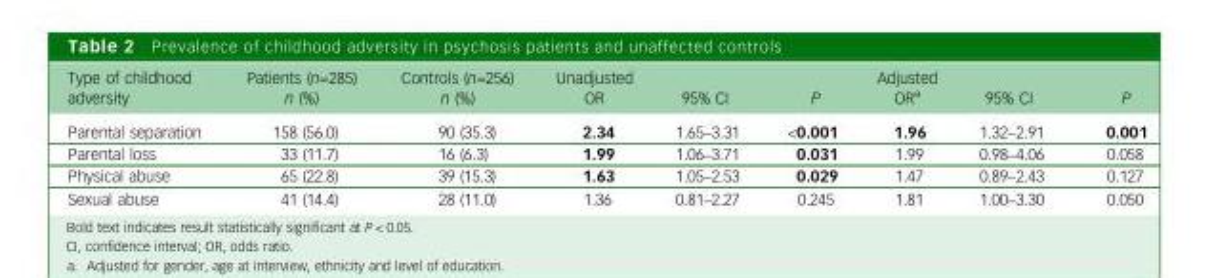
<table><thead><tr><td>Type of childhood adversity</td><td>Patients (n=285) n (%)</td><td>Controls (n=256) n (%)</td><td>Unadjusted OR</td><td>95% CI</td><td>P</td><td>Adjusted OR<sup>a</sup></td><td>95% CI</td><td>P</td></tr></thead><tbody><tr><td>Parental separation</td><td>158 (56.0)</td><td>90 (35.3)</td><td>2.34</td><td>1.65–3.31</td><td>&lt;0.001</td><td>1.96</td><td>1.32–2.91</td><td>0.001</td></tr><tr><td>Parental loss</td><td>33 (11.7)</td><td>16 (6.3)</td><td>1.99</td><td>1.06–3.71</td><td>0.031</td><td>1.99</td><td>0.98–4.06</td><td>0.058</td></tr><tr><td>Physical abuse</td><td>65 (22.8)</td><td>39 (15.3)</td><td>1.63</td><td>1.05–2.53</td><td>0.029</td><td>1.47</td><td>0.89–2.43</td><td>0.127</td></tr><tr><td>Sexual abuse</td><td>41 (14.4)</td><td>28 (11.0)</td><td>1.36</td><td>0.81–2.27</td><td>0.245</td><td>1.81</td><td>1.00–3.30</td><td>0.050</td></tr></tbody></table>